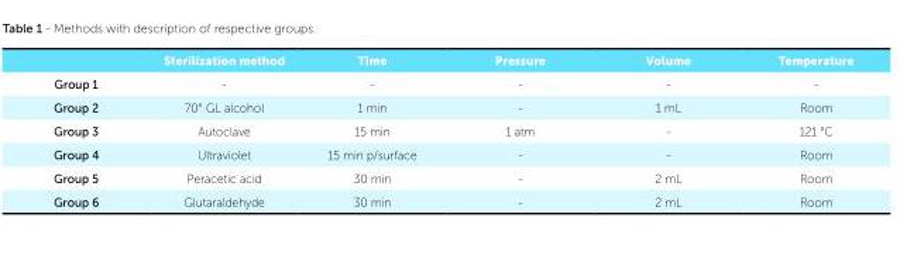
<table><thead><tr><td></td><td>Sterilization method</td><td>Time</td><td>Pressure</td><td>Volume</td><td>Temperature</td></tr></thead><tbody><tr><td>Group 1</td><td>-</td><td>-</td><td>-</td><td>-</td><td>-</td></tr><tr><td>Group 2</td><td>70° GL alcohol</td><td>1 min</td><td>-</td><td>1 mL</td><td>Room</td></tr><tr><td>Group 3</td><td>Autoclave</td><td>15 min</td><td>1 atm</td><td>-</td><td>121 °C</td></tr><tr><td>Group 4</td><td>Ultraviolet</td><td>15 min p/surface</td><td>-</td><td>-</td><td>Room</td></tr><tr><td>Group 5</td><td>Peracetic acid</td><td>30 min</td><td>-</td><td>2 mL</td><td>Room</td></tr><tr><td>Group 6</td><td>Glutaraldehyde</td><td>30 min</td><td>-</td><td>2 mL</td><td>Room</td></tr></tbody></table>